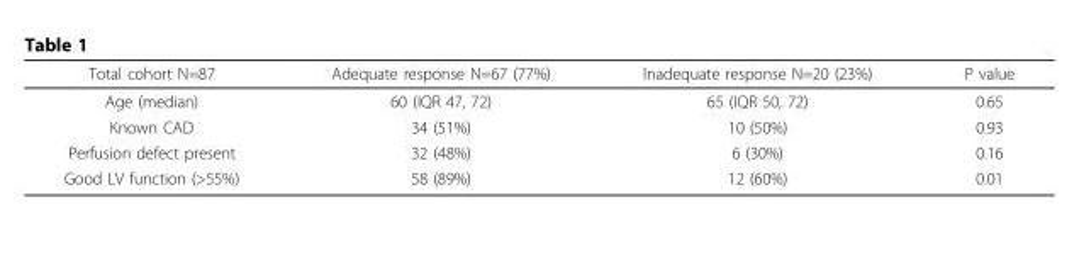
<table><thead><tr><td>Total cohort N=87</td><td>Adequate response N=67 (77%)</td><td>Inadequate response N=20 (23%)</td><td>P value</td></tr></thead><tbody><tr><td>Age (median)</td><td>60 (IQR 47, 72)</td><td>65 (IQR 50, 72)</td><td>0.65</td></tr><tr><td>Known CAD</td><td>34 (51%)</td><td>10 (50%)</td><td>0.93</td></tr><tr><td>Perfusion defect present</td><td>32 (48%)</td><td>6 (30%)</td><td>0.16</td></tr><tr><td>Good LV function (&gt;55%)</td><td>58 (89%)</td><td>12 (60%)</td><td>0.01</td></tr></tbody></table>